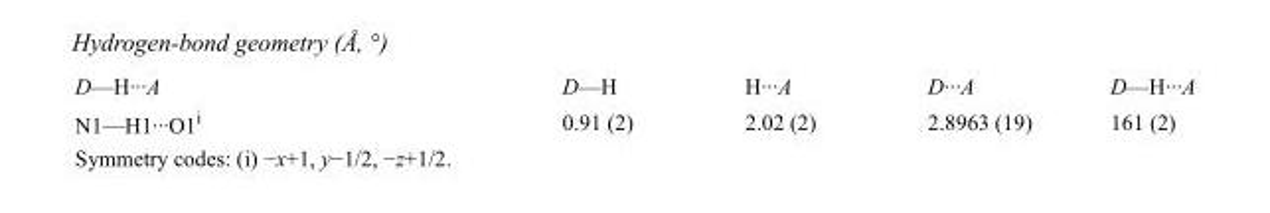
<table><tbody><tr><td>D—H···A</td><td>D—H</td><td>H···A</td><td>D···A</td><td>D—H···A</td></tr><tr><td>N1—H1···O1<sup>i</sup></td><td>0.91 (2)</td><td>2.02 (2)</td><td>2.8963 (19)</td><td>161 (2)</td></tr></tbody></table>